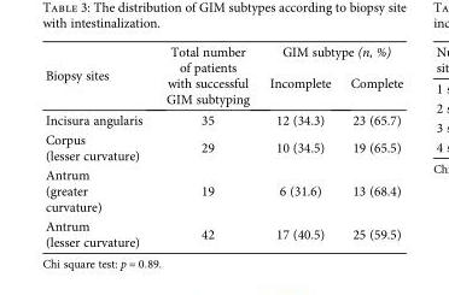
<table><thead><tr><td rowspan="2">Biopsy sites</td><td rowspan="2">Total number of patients with successful GIM subtyping</td><td colspan="2">GIM subtype (n, %)</td></tr><tr><td>Incomplete</td><td>Complete</td></tr></thead><tbody><tr><td>Incisura angularis</td><td>35</td><td>12 (34.3)</td><td>23 (65.7)</td></tr><tr><td>Corpus (lesser curvature)</td><td>29</td><td>10 (34.5)</td><td>19 (65.5)</td></tr><tr><td>Antrum (greater curvature)</td><td>19</td><td>6 (31.6)</td><td>13 (68.4)</td></tr><tr><td>Antrum (lesser curvature)</td><td>42</td><td>17 (40.5)</td><td>25 (59.5)</td></tr></tbody></table>